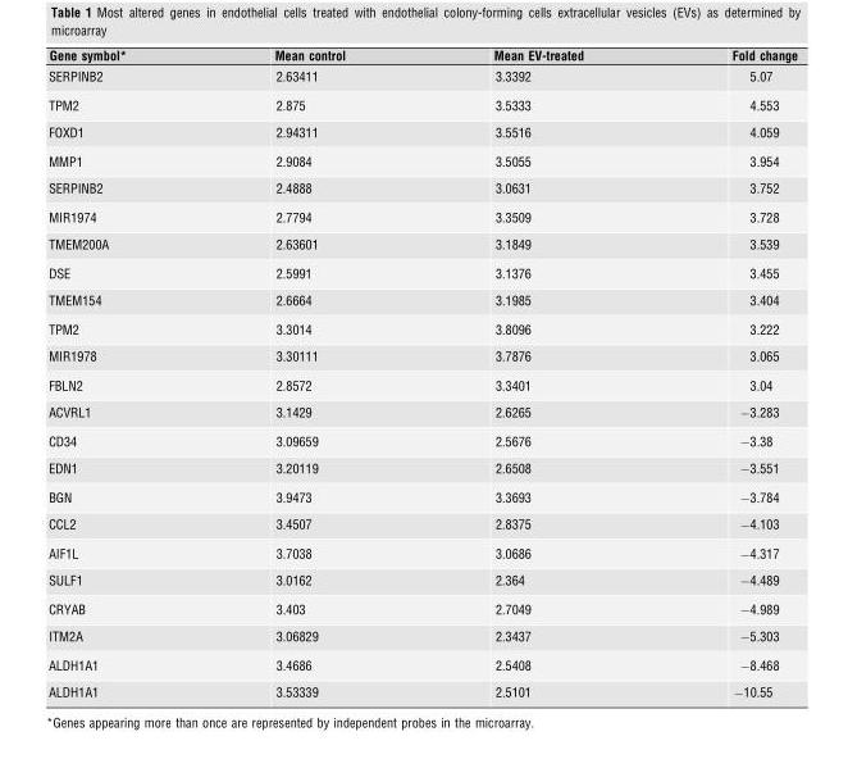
<table><thead><tr><td>Gene symbol*</td><td>Mean control</td><td>Mean EV-treated</td><td>Fold change</td></tr></thead><tbody><tr><td>SERPINB2</td><td>2.63411</td><td>3.3392</td><td>5.07</td></tr><tr><td>TPM2</td><td>2.875</td><td>3.5333</td><td>4.553</td></tr><tr><td>FOXD1</td><td>2.94311</td><td>3.5516</td><td>4.059</td></tr><tr><td>MMP1</td><td>2.9084</td><td>3.5055</td><td>3.954</td></tr><tr><td>SERPINB2</td><td>2.4888</td><td>3.0631</td><td>3.752</td></tr><tr><td>MIR1974</td><td>2.7794</td><td>3.3509</td><td>3.728</td></tr><tr><td>TMEM200A</td><td>2.63601</td><td>3.1849</td><td>3.539</td></tr><tr><td>DSE</td><td>2.5991</td><td>3.1376</td><td>3.455</td></tr><tr><td>TMEM154</td><td>2.6664</td><td>3.1985</td><td>3.404</td></tr><tr><td>TPM2</td><td>3.3014</td><td>3.8096</td><td>3.222</td></tr><tr><td>MIR1978</td><td>3.30111</td><td>3.7876</td><td>3.065</td></tr><tr><td>FBLN2</td><td>2.8572</td><td>3.3401</td><td>3.04</td></tr><tr><td>ACVRL1</td><td>3.1429</td><td>2.6265</td><td>−3.283</td></tr><tr><td>CD34</td><td>3.09659</td><td>2.5676</td><td>−3.38</td></tr><tr><td>EDN1</td><td>3.20119</td><td>2.6508</td><td>−3.551</td></tr><tr><td>BGN</td><td>3.9473</td><td>3.3693</td><td>−3.784</td></tr><tr><td>CCL2</td><td>3.4507</td><td>2.8375</td><td>−4.103</td></tr><tr><td>AIF1L</td><td>3.7038</td><td>3.0686</td><td>−4.317</td></tr><tr><td>SULF1</td><td>3.0162</td><td>2.364</td><td>−4.489</td></tr><tr><td>CRYAB</td><td>3.403</td><td>2.7049</td><td>−4.989</td></tr><tr><td>ITM2A</td><td>3.06829</td><td>2.3437</td><td>−5.303</td></tr><tr><td>ALDH1A1</td><td>3.4686</td><td>2.5408</td><td>−8.468</td></tr><tr><td>ALDH1A1</td><td>3.53339</td><td>2.5101</td><td>−10.55</td></tr></tbody></table>